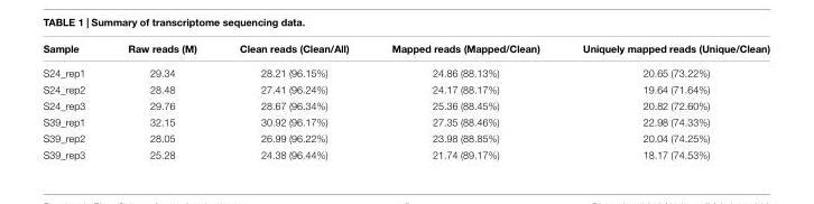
<table><thead><tr><td>Sample</td><td>Raw reads (M)</td><td>Clean reads (Clean/All)</td><td>Mapped reads (Mapped/Clean)</td><td>Uniquely mapped reads (Unique/Clean)</td></tr></thead><tbody><tr><td>S24_rep1</td><td>29.34</td><td>28.21 (96.15%)</td><td>24.86 (88.13%)</td><td>20.65 (73.22%)</td></tr><tr><td>S24_rep2</td><td>28.48</td><td>27.41 (96.24%)</td><td>24.17 (88.17%)</td><td>19.64 (71.64%)</td></tr><tr><td>S24_rep3</td><td>29.76</td><td>28.67 (96.34%)</td><td>25.36 (88.45%)</td><td>20.82 (72.60%)</td></tr><tr><td>S39_rep1</td><td>32.15</td><td>30.92 (96.17%)</td><td>27.35 (88.46%)</td><td>22.98 (74.33%)</td></tr><tr><td>S39_rep2</td><td>28.05</td><td>26.99 (96.22%)</td><td>23.98 (88.85%)</td><td>20.04 (74.25%)</td></tr><tr><td>S39_rep3</td><td>25.28</td><td>24.38 (96.44%)</td><td>21.74 (89.17%)</td><td>18.17 (74.53%)</td></tr></tbody></table>